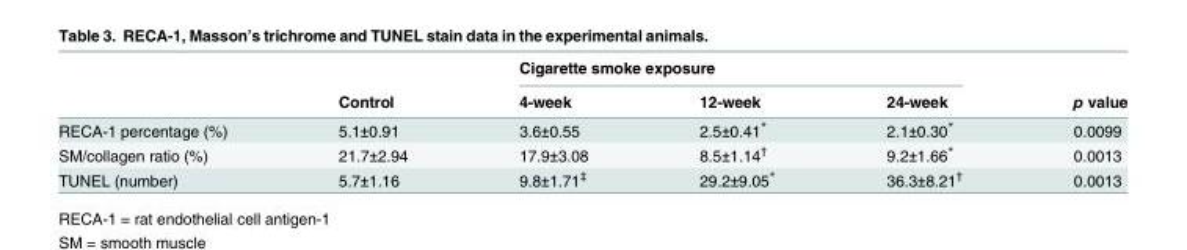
<table><thead><tr><td rowspan="2"></td><td rowspan="2">Control</td><td colspan="3">Cigarette smoke exposure</td><td rowspan="2">p value</td></tr><tr><td>4-week</td><td>12-week</td><td>24-week</td></tr></thead><tbody><tr><td>RECA-1 percentage (%)</td><td>5.1±0.91</td><td>3.6±0.55</td><td>2.5±0.41*</td><td>2.1±0.30*</td><td>0.0099</td></tr><tr><td>SM/collagen ratio (%)</td><td>21.7±2.94</td><td>17.9±3.08</td><td>8.5±1.14<sup>†</sup></td><td>9.2±1.66*</td><td>0.0013</td></tr><tr><td>TUNEL (number)</td><td>5.7±1.16</td><td>9.8±1.71<sup>‡</sup></td><td>29.2±9.05*</td><td>36.3±8.21<sup>†</sup></td><td>0.0013</td></tr></tbody></table>